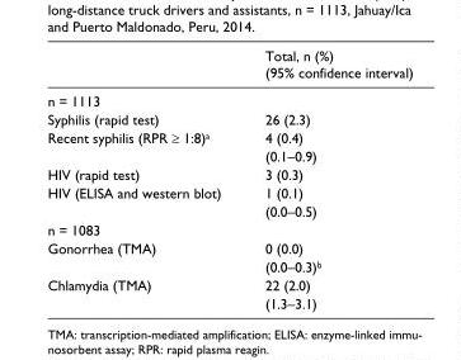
<table><thead><tr><td></td><td>Total, n (%) (95% confidence interval)</td></tr></thead><tbody><tr><td colspan="2">n = 1113</td></tr><tr><td>Syphilis (rapid test)</td><td>26 (2.3)</td></tr><tr><td rowspan="2">Recent syphilis (RPR ≥ 1:8)<sup>a</sup></td><td>4 (0.4)</td></tr><tr><td>(0.1–0.9)</td></tr><tr><td>HIV (rapid test)</td><td>3 (0.3)</td></tr><tr><td rowspan="2">HIV (ELISA and western blot)</td><td>1 (0.1)</td></tr><tr><td>(0.0–0.5)</td></tr><tr><td colspan="2">n = 1083</td></tr><tr><td rowspan="2">Gonorrhea (TMA)</td><td>0 (0.0)</td></tr><tr><td>(0.0–0.3)b</td></tr><tr><td rowspan="2">Chlamydia (TMA)</td><td>22 (2.0)</td></tr><tr><td>(1.3–3.1)</td></tr></tbody></table>